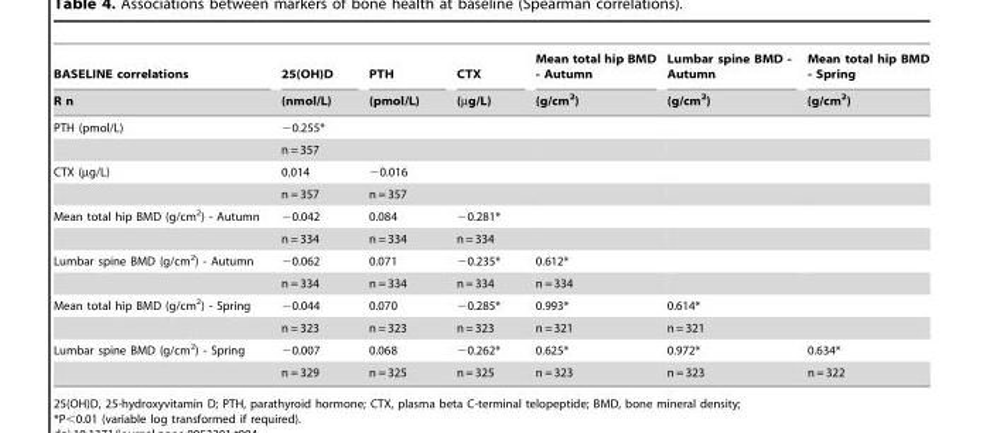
<table><thead><tr><td rowspan="2">BASELINE correlations R n</td><td rowspan="2">25(OH)D (nmol/L)</td><td rowspan="2">PTH (pmol/L)</td><td rowspan="2">CTX (µg/L)</td><td rowspan="2">Mean total hip BMD - Autumn (g/cm<sup>2</sup>)</td><td rowspan="2">Lumbar spine BMD - Autumn (g/cm<sup>2</sup>)</td><td rowspan="2">Mean total hip BMD - Spring (g/cm<sup>2</sup>)</td></tr><tr></tr></thead><tbody><tr><td rowspan="2">PTH (pmol/L)</td><td>−0.255*</td><td></td><td></td><td></td><td></td><td></td></tr><tr><td>n = 357</td><td></td><td></td><td></td><td></td><td></td></tr><tr><td rowspan="2">CTX (µg/L)</td><td>0.014</td><td>−0.016</td><td></td><td></td><td></td><td></td></tr><tr><td>n = 357</td><td>n = 357</td><td></td><td></td><td></td><td></td></tr><tr><td rowspan="2">Mean total hip BMD (g/cm<sup>2</sup>) - Autumn</td><td>−0.042</td><td>0.084</td><td>−0.281*</td><td></td><td></td><td></td></tr><tr><td>n = 334</td><td>n = 334</td><td>n = 334</td><td></td><td></td><td></td></tr><tr><td rowspan="2">Lumbar spine BMD (g/cm<sup>2</sup>) - Autumn</td><td>−0.062</td><td>0.071</td><td>−0.235*</td><td>0.612*</td><td></td><td></td></tr><tr><td>n = 334</td><td>n = 334</td><td>n = 334</td><td>n = 334</td><td></td><td></td></tr><tr><td rowspan="2">Mean total hip BMD (g/cm<sup>2</sup>) - Spring</td><td>−0.044</td><td>0.070</td><td>−0.285*</td><td>0.993*</td><td>0.614*</td><td></td></tr><tr><td>n = 323</td><td>n = 323</td><td>n = 323</td><td>n = 321</td><td>n = 321</td><td></td></tr><tr><td rowspan="2">Lumbar spine BMD (g/cm<sup>2</sup>) - Spring</td><td>−0.007</td><td>0.068</td><td>−0.262*</td><td>0.625*</td><td>0.972*</td><td>0.634*</td></tr><tr><td>n = 329</td><td>n = 325</td><td>n = 325</td><td>n = 323</td><td>n = 323</td><td>n = 322</td></tr></tbody></table>